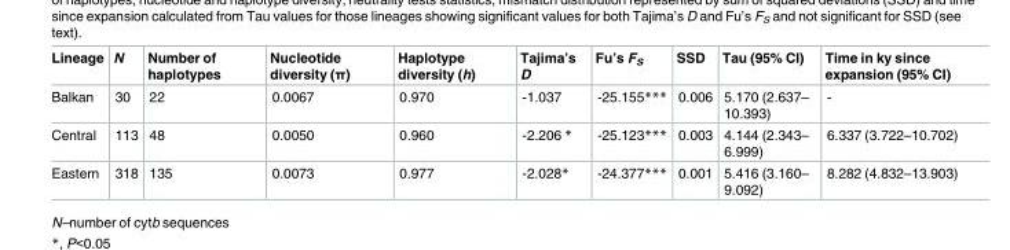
<table><thead><tr><td>Lineage</td><td>N</td><td>Number of haplotypes</td><td>Nucleotide diversity (π)</td><td>Haplotype diversity (h)</td><td>Tajima’s D</td><td>Fu’s F<sub>S</sub></td><td>SSD</td><td>Tau (95% CI)</td><td>Time in ky since expansion (95% CI)</td></tr></thead><tbody><tr><td>Balkan</td><td>30</td><td>22</td><td>0.0067</td><td>0.970</td><td>-1.037</td><td>-25.155***</td><td>0.006</td><td>5.170 (2.637– 10.393)</td><td>-</td></tr><tr><td>Central</td><td>113</td><td>48</td><td>0.0050</td><td>0.960</td><td>-2.206 *</td><td>-25.123***</td><td>0.003</td><td>4.144 (2.343– 6.999)</td><td>6.337 (3.722–10.702)</td></tr><tr><td>Eastern</td><td>318</td><td>135</td><td>0.0073</td><td>0.977</td><td>-2.028*</td><td>-24.377***</td><td>0.001</td><td>5.416 (3.160– 9.092)</td><td>8.282 (4.832–13.903)</td></tr></tbody></table>